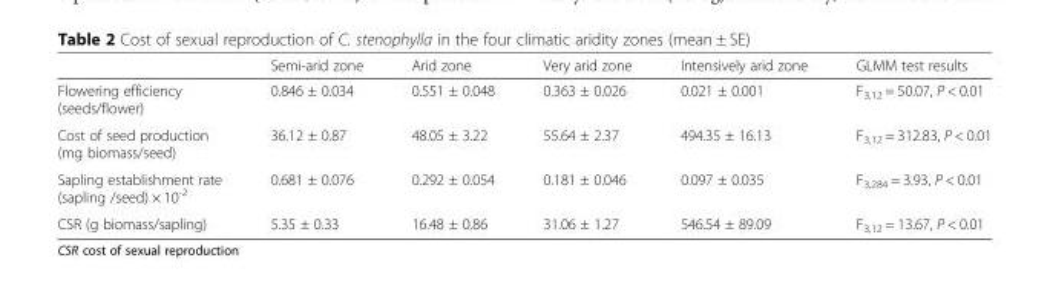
<table><thead><tr><td></td><td>Semi-arid zone</td><td>Arid zone</td><td>Very arid zone</td><td>Intensively arid zone</td><td>GLMM test results</td></tr></thead><tbody><tr><td>Flowering efficiency (seeds/flower)</td><td>0.846 ± 0.034</td><td>0.551 ± 0.048</td><td>0.363 ± 0.026</td><td>0.021 ± 0.001</td><td>F<sub>3,12</sub> = 50.07, P &lt; 0.01</td></tr><tr><td>Cost of seed production (mg biomass/seed)</td><td>36.12 ± 0.87</td><td>48.05 ± 3.22</td><td>55.64 ± 2.37</td><td>494.35 ± 16.13</td><td>F<sub>3,12</sub> = 312.83, P &lt; 0.01</td></tr><tr><td>Sapling establishment rate (sapling /seed) × 10<sup>-2</sup></td><td>0.681 ± 0.076</td><td>0.292 ± 0.054</td><td>0.181 ± 0.046</td><td>0.097 ± 0.035</td><td>F<sub>3,284</sub> = 3.93, P &lt; 0.01</td></tr><tr><td>CSR (g biomass/sapling)</td><td>5.35 ± 0.33</td><td>16.48 ± 0.86</td><td>31.06 ± 1.27</td><td>546.54 ± 89.09</td><td>F<sub>3,12</sub> = 13.67, P &lt; 0.01</td></tr></tbody></table>